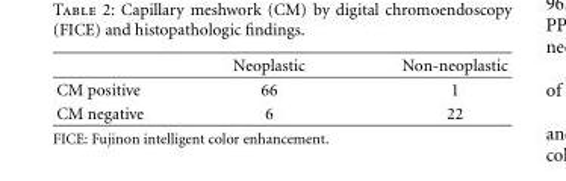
<table><thead><tr><td></td><td>Neoplastic</td><td>Non-neoplastic</td></tr></thead><tbody><tr><td>CM positive</td><td>66</td><td>1</td></tr><tr><td>CM negative</td><td>6</td><td>22</td></tr></tbody></table>